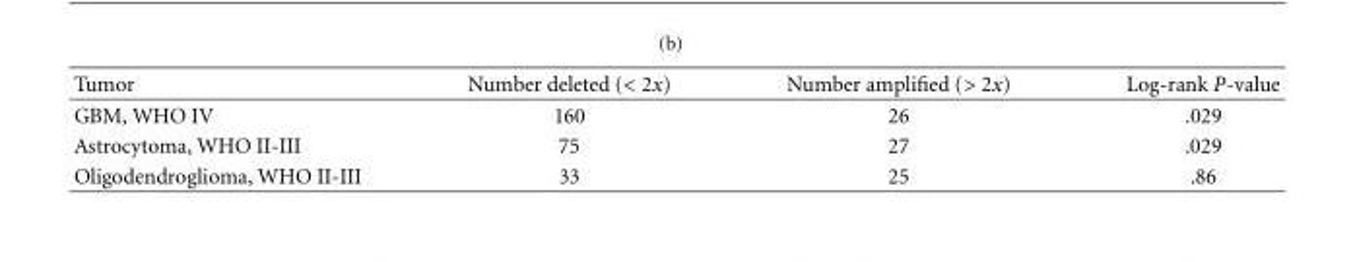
<table><thead><tr><td>Tumor</td><td>Number deleted (&lt; 2x)</td><td>Number amplified (&gt; 2x)</td><td>Log-rank P-value</td></tr></thead><tbody><tr><td>GBM, WHO IV</td><td>160</td><td>26</td><td>.029</td></tr><tr><td>Astrocytoma, WHO II-III</td><td>75</td><td>27</td><td>.029</td></tr><tr><td>Oligodendroglioma, WHO II-III</td><td>33</td><td>25</td><td>.86</td></tr></tbody></table>